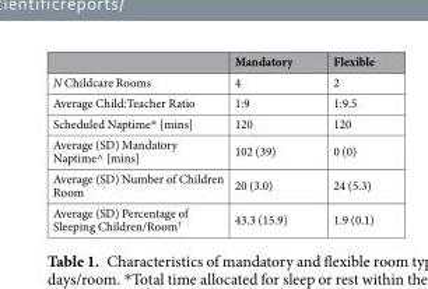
<table><thead><tr><td></td><td>Mandatory</td><td>Flexible</td></tr></thead><tbody><tr><td>N Childcare Rooms</td><td>4</td><td>2</td></tr><tr><td>Average Child:Teacher Ratio</td><td>1:9</td><td>1:9.5</td></tr><tr><td>Scheduled Naptime* [mins]</td><td>120</td><td>120</td></tr><tr><td>Average (SD) Mandatory Naptime^ [mins]</td><td>102 (39)</td><td>0 (0)</td></tr><tr><td>Average (SD) Number of Children Room</td><td>20 (3.0)</td><td>24 (5.3)</td></tr><tr><td>Average (SD) Percentage of Sleeping Children/Room<sup>†</sup></td><td>43.3 (15.9)</td><td>1.9 (0.1)</td></tr></tbody></table>